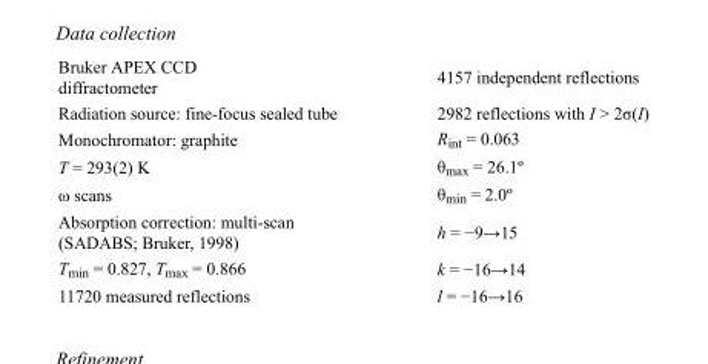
<table><tbody><tr><td>Bruker APEX CCD diffractometer</td><td>4157 independent reflections</td></tr><tr><td>Radiation source: fine-focus sealed tube</td><td>2982 reflections with I &gt; 2σ(I)</td></tr><tr><td>Monochromator: graphite</td><td>R<sub>int</sub> = 0.063</td></tr><tr><td>T = 293(2) K</td><td>θ<sub>max</sub> = 26.1º</td></tr><tr><td>ω scans</td><td>θ<sub>min</sub> = 2.0º</td></tr><tr><td>Absorption correction: multi-scan (SADABS; Bruker, 1998)</td><td>h = −9→15</td></tr><tr><td>T<sub>min</sub> = 0.827, T<sub>max</sub> = 0.866</td><td>k = −16→14</td></tr><tr><td>11720 measured reflections</td><td>l = −16→16</td></tr></tbody></table>